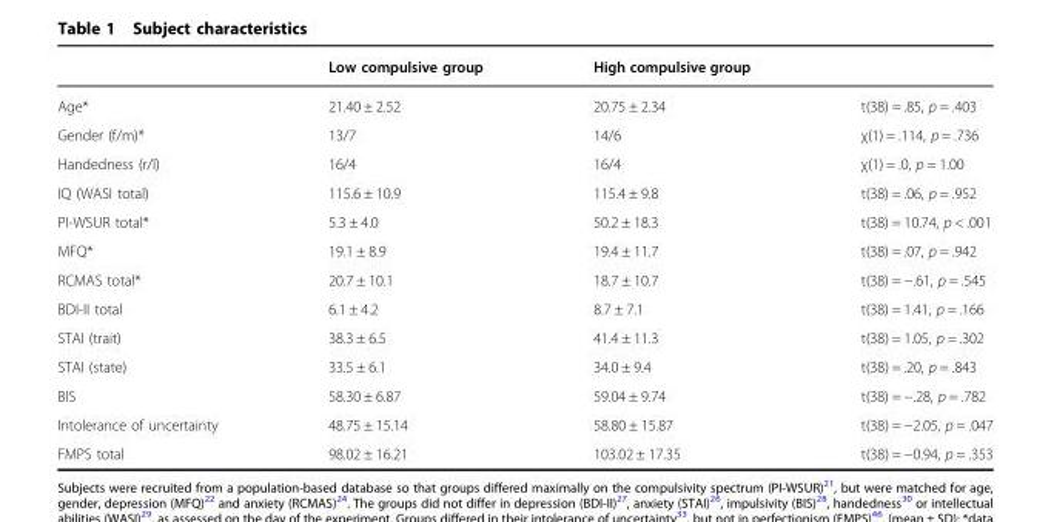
<table><thead><tr><td></td><td>Low compulsive group</td><td>High compulsive group</td><td></td></tr></thead><tbody><tr><td>Age*</td><td>21.40 ± 2.52</td><td>20.75 ± 2.34</td><td>t(38) = .85, p = .403</td></tr><tr><td>Gender (f/m)*</td><td>13/7</td><td>14/6</td><td>χ(1) = .114, p = .736</td></tr><tr><td>Handedness (r/l)</td><td>16/4</td><td>16/4</td><td>χ(1) = .0, p = 1.00</td></tr><tr><td>IQ (WASI total)</td><td>115.6 ± 10.9</td><td>115.4 ± 9.8</td><td>t(38) = .06, p = .952</td></tr><tr><td>PI-WSUR total*</td><td>5.3 ± 4.0</td><td>50.2 ± 18.3</td><td>t(38) = 10.74, p &lt; .001</td></tr><tr><td>MFQ*</td><td>19.1 ± 8.9</td><td>19.4 ± 11.7</td><td>t(38) = .07, p = .942</td></tr><tr><td>RCMAS total*</td><td>20.7 ± 10.1</td><td>18.7 ± 10.7</td><td>t(38) = −.61, p = .545</td></tr><tr><td>BDI-II total</td><td>6.1 ± 4.2</td><td>8.7 ± 7.1</td><td>t(38) = 1.41, p = .166</td></tr><tr><td>STAI (trait)</td><td>38.3 ± 6.5</td><td>41.4 ± 11.3</td><td>t(38) = 1.05, p = .302</td></tr><tr><td>STAI (state)</td><td>33.5 ± 6.1</td><td>34.0 ± 9.4</td><td>t(38) = .20, p = .843</td></tr><tr><td>BIS</td><td>58.30 ± 6.87</td><td>59.04 ± 9.74</td><td>t(38) = −.28, p = .782</td></tr><tr><td>Intolerance of uncertainty</td><td>48.75 ± 15.14</td><td>58.80 ± 15.87</td><td>t(38) = −2.05, p = .047</td></tr><tr><td>FMPS total</td><td>98.02 ± 16.21</td><td>103.02 ± 17.35</td><td>t(38) = −0.94, p = .353</td></tr></tbody></table>